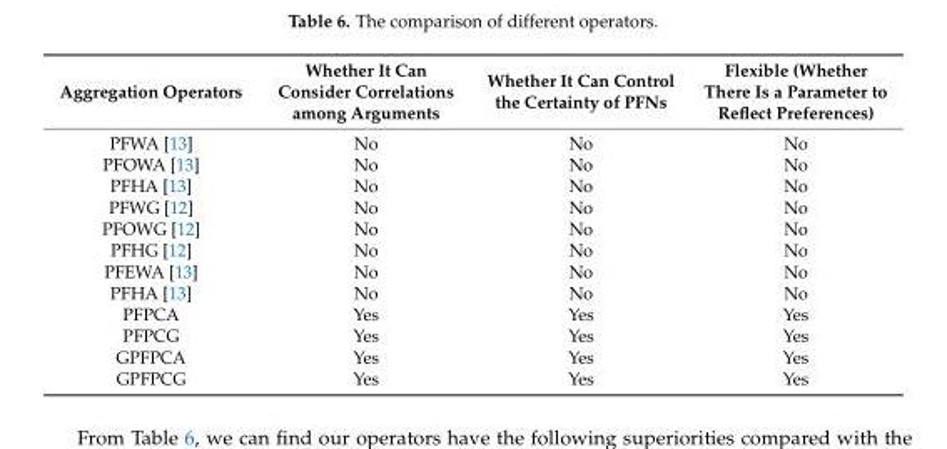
<table><thead><tr><td>Aggregation Operators</td><td>Whether It Can Consider Correlations among Arguments</td><td>Whether It Can Control the Certainty of PFNs</td><td>Flexible (Whether There Is a Parameter to Reflect Preferences)</td></tr></thead><tbody><tr><td>PFWA [13]</td><td>No</td><td>No</td><td>No</td></tr><tr><td>PFOWA [13]</td><td>No</td><td>No</td><td>No</td></tr><tr><td>PFHA [13]</td><td>No</td><td>No</td><td>No</td></tr><tr><td>PFWG [12]</td><td>No</td><td>No</td><td>No</td></tr><tr><td>PFOWG [12]</td><td>No</td><td>No</td><td>No</td></tr><tr><td>PFHG [12]</td><td>No</td><td>No</td><td>No</td></tr><tr><td>PFEWA [13]</td><td>No</td><td>No</td><td>No</td></tr><tr><td>PFHA [13]</td><td>No</td><td>No</td><td>No</td></tr><tr><td>PFPCA</td><td>Yes</td><td>Yes</td><td>Yes</td></tr><tr><td>PFPCG</td><td>Yes</td><td>Yes</td><td>Yes</td></tr><tr><td>GPFPCA</td><td>Yes</td><td>Yes</td><td>Yes</td></tr><tr><td>GPFPCG</td><td>Yes</td><td>Yes</td><td>Yes</td></tr></tbody></table>